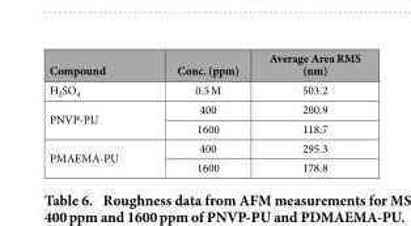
<table><thead><tr><td>Compound</td><td>Conc. (ppm)</td><td>Average Area RMS (nm)</td></tr></thead><tbody><tr><td>H<sub>2</sub>SO<sub>4</sub></td><td>0.5 M</td><td>503.2</td></tr><tr><td rowspan="2">PNVP-PU</td><td>400</td><td>200.9</td></tr><tr><td>1600</td><td>118.7</td></tr><tr><td rowspan="2">PMAEMA-PU</td><td>400</td><td>295.3</td></tr><tr><td>1600</td><td>178.8</td></tr></tbody></table>